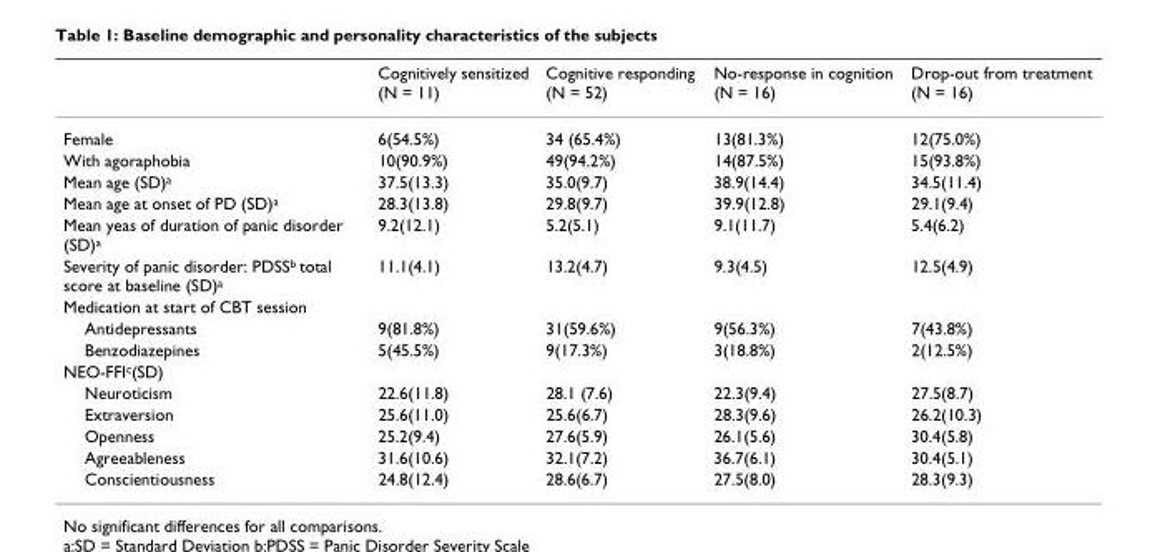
<table><thead><tr><td></td><td>Cognitively sensitized (N = 11)</td><td>Cognitive responding (N = 52)</td><td>No-response in cognition (N = 16)</td><td>Drop-out from treatment (N = 16)</td></tr></thead><tbody><tr><td>Female</td><td>6(54.5%)</td><td>34 (65.4%)</td><td>13(81.3%)</td><td>12(75.0%)</td></tr><tr><td>With agoraphobia</td><td>10(90.9%)</td><td>49(94.2%)</td><td>14(87.5%)</td><td>15(93.8%)</td></tr><tr><td>Mean age (SD)<sup>a</sup></td><td>37.5(13.3)</td><td>35.0(9.7)</td><td>38.9(14.4)</td><td>34.5(11.4)</td></tr><tr><td>Mean age at onset of PD (SD)<sup>a</sup></td><td>28.3(13.8)</td><td>29.8(9.7)</td><td>39.9(12.8)</td><td>29.1(9.4)</td></tr><tr><td>Mean yeas of duration of panic disorder (SD)<sup>a</sup></td><td>9.2(12.1)</td><td>5.2(5.1)</td><td>9.1(11.7)</td><td>5.4(6.2)</td></tr><tr><td>Severity of panic disorder: PDSS<sup>b</sup> total score at baseline (SD)<sup>a</sup></td><td>11.1(4.1)</td><td>13.2(4.7)</td><td>9.3(4.5)</td><td>12.5(4.9)</td></tr><tr><td colspan="5">Medication at start of CBT session</td></tr><tr><td>Antidepressants</td><td>9(81.8%)</td><td>31(59.6%)</td><td>9(56.3%)</td><td>7(43.8%)</td></tr><tr><td>Benzodiazepines</td><td>5(45.5%)</td><td>9(17.3%)</td><td>3(18.8%)</td><td>2(12.5%)</td></tr><tr><td colspan="5">NEO-FFI<sup>c</sup>(SD)</td></tr><tr><td>Neuroticism</td><td>22.6(11.8)</td><td>28.1 (7.6)</td><td>22.3(9.4)</td><td>27.5(8.7)</td></tr><tr><td>Extraversion</td><td>25.6(11.0)</td><td>25.6(6.7)</td><td>28.3(9.6)</td><td>26.2(10.3)</td></tr><tr><td>Openness</td><td>25.2(9.4)</td><td>27.6(5.9)</td><td>26.1(5.6)</td><td>30.4(5.8)</td></tr><tr><td>Agreeableness</td><td>31.6(10.6)</td><td>32.1(7.2)</td><td>36.7(6.1)</td><td>30.4(5.1)</td></tr><tr><td>Conscientiousness</td><td>24.8(12.4)</td><td>28.6(6.7)</td><td>27.5(8.0)</td><td>28.3(9.3)</td></tr></tbody></table>